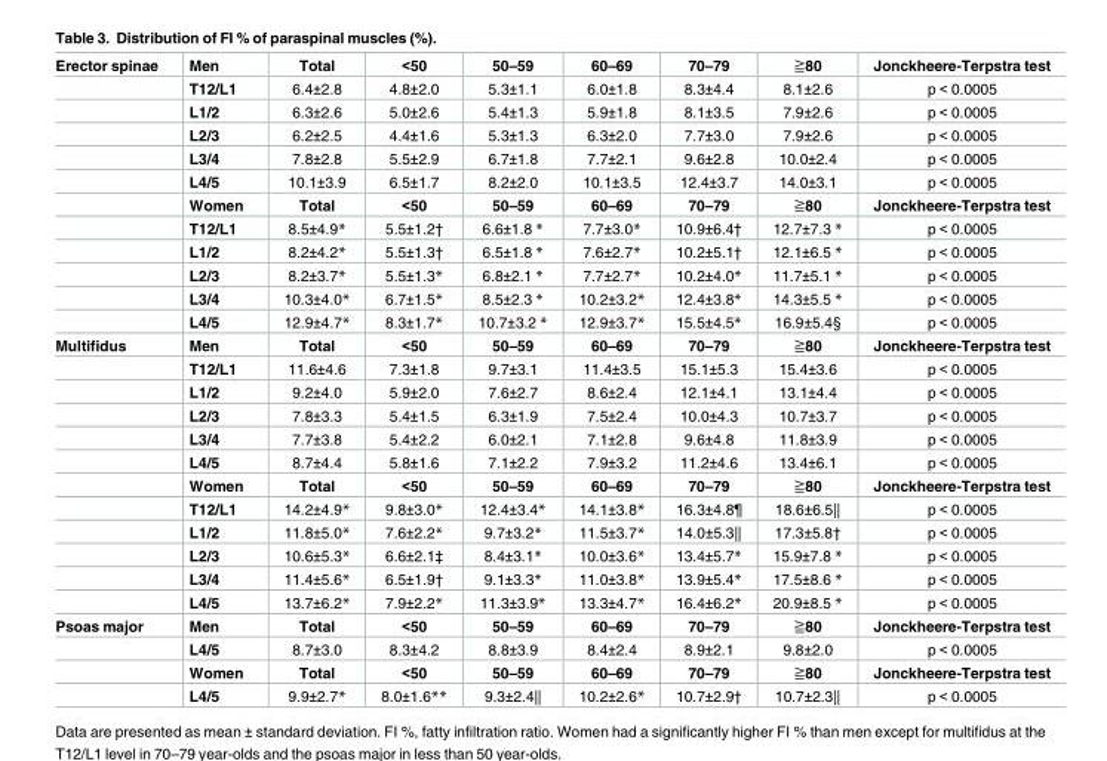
<table><tbody><tr><td rowspan="12">Erector spinae</td><td>Men</td><td>Total</td><td>&lt;50</td><td>50–59</td><td>60–69</td><td>70–79</td><td>≧80</td><td>Jonckheere-Terpstra test</td></tr><tr><td>T12/L1</td><td>6.4±2.8</td><td>4.8±2.0</td><td>5.3±1.1</td><td>6.0±1.8</td><td>8.3±4.4</td><td>8.1±2.6</td><td>p &lt; 0.0005</td></tr><tr><td>L1/2</td><td>6.3±2.6</td><td>5.0±2.6</td><td>5.4±1.3</td><td>5.9±1.8</td><td>8.1±3.5</td><td>7.9±2.6</td><td>p &lt; 0.0005</td></tr><tr><td>L2/3</td><td>6.2±2.5</td><td>4.4±1.6</td><td>5.3±1.3</td><td>6.3±2.0</td><td>7.7±3.0</td><td>7.9±2.6</td><td>p &lt; 0.0005</td></tr><tr><td>L3/4</td><td>7.8±2.8</td><td>5.5±2.9</td><td>6.7±1.8</td><td>7.7±2.1</td><td>9.6±2.8</td><td>10.0±2.4</td><td>p &lt; 0.0005</td></tr><tr><td>L4/5</td><td>10.1±3.9</td><td>6.5±1.7</td><td>8.2±2.0</td><td>10.1±3.5</td><td>12.4±3.7</td><td>14.0±3.1</td><td>p &lt; 0.0005</td></tr><tr><td>Women</td><td>Total</td><td>&lt;50</td><td>50–59</td><td>60–69</td><td>70–79</td><td>≧80</td><td>Jonckheere-Terpstra test</td></tr><tr><td>T12/L1</td><td>8.5±4.9*</td><td>5.5±1.2†</td><td>6.6±1.8 *</td><td>7.7±3.0*</td><td>10.9±6.4†</td><td>12.7±7.3 *</td><td>p &lt; 0.0005</td></tr><tr><td>L1/2</td><td>8.2±4.2*</td><td>5.5±1.3†</td><td>6.5±1.8 *</td><td>7.6±2.7*</td><td>10.2±5.1†</td><td>12.1±6.5 *</td><td>p &lt; 0.0005</td></tr><tr><td>L2/3</td><td>8.2±3.7*</td><td>5.5±1.3*</td><td>6.8±2.1 *</td><td>7.7±2.7*</td><td>10.2±4.0*</td><td>11.7±5.1 *</td><td>p &lt; 0.0005</td></tr><tr><td>L3/4</td><td>10.3±4.0*</td><td>6.7±1.5*</td><td>8.5±2.3 *</td><td>10.2±3.2*</td><td>12.4±3.8*</td><td>14.3±5.5 *</td><td>p &lt; 0.0005</td></tr><tr><td>L4/5</td><td>12.9±4.7*</td><td>8.3±1.7*</td><td>10.7±3.2 *</td><td>12.9±3.7*</td><td>15.5±4.5*</td><td>16.9±5.4§</td><td>p &lt; 0.0005</td></tr><tr><td rowspan="12">Multifidus</td><td>Men</td><td>Total</td><td>&lt;50</td><td>50–59</td><td>60–69</td><td>70–79</td><td>≧80</td><td>Jonckheere-Terpstra test</td></tr><tr><td>T12/L1</td><td>11.6±4.6</td><td>7.3±1.8</td><td>9.7±3.1</td><td>11.4±3.5</td><td>15.1±5.3</td><td>15.4±3.6</td><td>p &lt; 0.0005</td></tr><tr><td>L1/2</td><td>9.2±4.0</td><td>5.9±2.0</td><td>7.6±2.7</td><td>8.6±2.4</td><td>12.1±4.1</td><td>13.1±4.4</td><td>p &lt; 0.0005</td></tr><tr><td>L2/3</td><td>7.8±3.3</td><td>5.4±1.5</td><td>6.3±1.9</td><td>7.5±2.4</td><td>10.0±4.3</td><td>10.7±3.7</td><td>p &lt; 0.0005</td></tr><tr><td>L3/4</td><td>7.7±3.8</td><td>5.4±2.2</td><td>6.0±2.1</td><td>7.1±2.8</td><td>9.6±4.8</td><td>11.8±3.9</td><td>p &lt; 0.0005</td></tr><tr><td>L4/5</td><td>8.7±4.4</td><td>5.8±1.6</td><td>7.1±2.2</td><td>7.9±3.2</td><td>11.2±4.6</td><td>13.4±6.1</td><td>p &lt; 0.0005</td></tr><tr><td>Women</td><td>Total</td><td>&lt;50</td><td>50–59</td><td>60–69</td><td>70–79</td><td>≧80</td><td>Jonckheere-Terpstra test</td></tr><tr><td>T12/L1</td><td>14.2±4.9*</td><td>9.8±3.0*</td><td>12.4±3.4*</td><td>14.1±3.8*</td><td>16.3±4.8¶</td><td>18.6±6.5||</td><td>p &lt; 0.0005</td></tr><tr><td>L1/2</td><td>11.8±5.0*</td><td>7.6±2.2*</td><td>9.7±3.2*</td><td>11.5±3.7*</td><td>14.0±5.3||</td><td>17.3±5.8†</td><td>p &lt; 0.0005</td></tr><tr><td>L2/3</td><td>10.6±5.3*</td><td>6.6±2.1‡</td><td>8.4±3.1*</td><td>10.0±3.6*</td><td>13.4±5.7*</td><td>15.9±7.8 *</td><td>p &lt; 0.0005</td></tr><tr><td>L3/4</td><td>11.4±5.6*</td><td>6.5±1.9†</td><td>9.1±3.3*</td><td>11.0±3.8*</td><td>13.9±5.4*</td><td>17.5±8.6 *</td><td>p &lt; 0.0005</td></tr><tr><td>L4/5</td><td>13.7±6.2*</td><td>7.9±2.2*</td><td>11.3±3.9*</td><td>13.3±4.7*</td><td>16.4±6.2*</td><td>20.9±8.5 *</td><td>p &lt; 0.0005</td></tr><tr><td rowspan="4">Psoas major</td><td>Men</td><td>Total</td><td>&lt;50</td><td>50–59</td><td>60–69</td><td>70–79</td><td>≧80</td><td>Jonckheere-Terpstra test</td></tr><tr><td>L4/5</td><td>8.7±3.0</td><td>8.3±4.2</td><td>8.8±3.9</td><td>8.4±2.4</td><td>8.9±2.1</td><td>9.8±2.0</td><td>p &lt; 0.0005</td></tr><tr><td>Women</td><td>Total</td><td>&lt;50</td><td>50–59</td><td>60–69</td><td>70–79</td><td>≧80</td><td>Jonckheere-Terpstra test</td></tr><tr><td>L4/5</td><td>9.9±2.7*</td><td>8.0±1.6**</td><td>9.3±2.4||</td><td>10.2±2.6*</td><td>10.7±2.9†</td><td>10.7±2.3||</td><td>p &lt; 0.0005</td></tr></tbody></table>